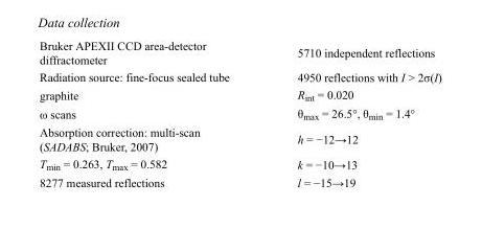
<table><tbody><tr><td>Bruker APEXII CCD area-detector diffractometer</td><td>5710 independent reflections</td></tr><tr><td>Radiation source: fine-focus sealed tube</td><td>4950 reflections with I &gt; 2σ(I)</td></tr><tr><td>graphite</td><td>R<sub>int</sub> = 0.020</td></tr><tr><td>ω scans</td><td>θ<sub>max</sub> = 26.5°, θ<sub>min</sub> = 1.4°</td></tr><tr><td>Absorption correction: multi-scan (SADABS; Bruker, 2007)</td><td>h = −12→12</td></tr><tr><td>T<sub>min</sub> = 0.263, T<sub>max</sub> = 0.582</td><td>k = −10→13</td></tr><tr><td>8277 measured reflections</td><td>l = −15→19</td></tr></tbody></table>